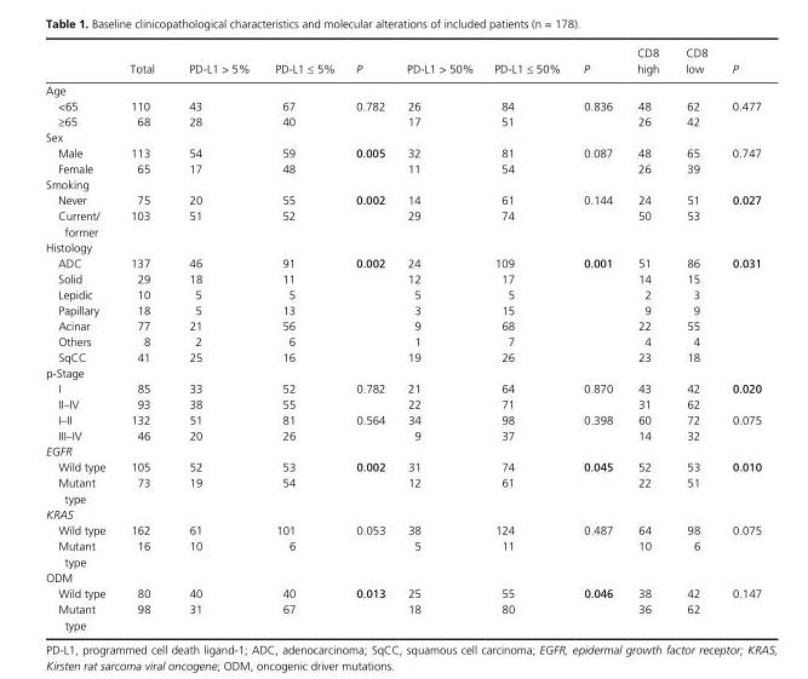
<table><thead><tr><td></td><td>Total</td><td>PD- L1 &gt; 5%</td><td>PD- L1 ≤ 5%</td><td>P</td><td>PD- L1 &gt; 50%</td><td>PD- L1 ≤ 50%</td><td>P</td><td>CD8 high</td><td>CD8 low</td><td>P</td></tr></thead><tbody><tr><td colspan="11">Age</td></tr><tr><td>&lt;65</td><td>110</td><td>43</td><td>67</td><td>0.782</td><td>26</td><td>84</td><td>0.836</td><td>48</td><td>62</td><td>0.477</td></tr><tr><td>≥65</td><td>68</td><td>28</td><td>40</td><td></td><td>17</td><td>51</td><td></td><td>26</td><td>42</td><td></td></tr><tr><td colspan="11">Sex</td></tr><tr><td>Male</td><td>113</td><td>54</td><td>59</td><td>0.005</td><td>32</td><td>81</td><td>0.087</td><td>48</td><td>65</td><td>0.747</td></tr><tr><td>Female</td><td>65</td><td>17</td><td>48</td><td></td><td>11</td><td>54</td><td></td><td>26</td><td>39</td><td></td></tr><tr><td colspan="11">Smoking</td></tr><tr><td>Never</td><td>75</td><td>20</td><td>55</td><td>0.002</td><td>14</td><td>61</td><td>0.144</td><td>24</td><td>51</td><td>0.027</td></tr><tr><td>Current/ former</td><td>103</td><td>51</td><td>52</td><td></td><td>29</td><td>74</td><td></td><td>50</td><td>53</td><td></td></tr><tr><td colspan="11">Histology</td></tr><tr><td>ADC</td><td>137</td><td>46</td><td>91</td><td>0.002</td><td>24</td><td>109</td><td>0.001</td><td>51</td><td>86</td><td>0.031</td></tr><tr><td>Solid</td><td>29</td><td>18</td><td>11</td><td></td><td>12</td><td>17</td><td></td><td>14</td><td>15</td><td></td></tr><tr><td>Lepidic</td><td>10</td><td>5</td><td>5</td><td></td><td>5</td><td>5</td><td></td><td>2</td><td>3</td><td></td></tr><tr><td>Papillary</td><td>18</td><td>5</td><td>13</td><td></td><td>3</td><td>15</td><td></td><td>9</td><td>9</td><td></td></tr><tr><td>Acinar</td><td>77</td><td>21</td><td>56</td><td></td><td>9</td><td>68</td><td></td><td>22</td><td>55</td><td></td></tr><tr><td>Others</td><td>8</td><td>2</td><td>6</td><td></td><td>1</td><td>7</td><td></td><td>4</td><td>4</td><td></td></tr><tr><td>SqCC</td><td>41</td><td>25</td><td>16</td><td></td><td>19</td><td>26</td><td></td><td>23</td><td>18</td><td></td></tr><tr><td colspan="11">p- Stage</td></tr><tr><td>I</td><td>85</td><td>33</td><td>52</td><td>0.782</td><td>21</td><td>64</td><td>0.870</td><td>43</td><td>42</td><td>0.020</td></tr><tr><td>II–IV</td><td>93</td><td>38</td><td>55</td><td></td><td>22</td><td>71</td><td></td><td>31</td><td>62</td><td></td></tr><tr><td>I–II</td><td>132</td><td>51</td><td>81</td><td>0.564</td><td>34</td><td>98</td><td>0.398</td><td>60</td><td>72</td><td>0.075</td></tr><tr><td>III–IV</td><td>46</td><td>20</td><td>26</td><td></td><td>9</td><td>37</td><td></td><td>14</td><td>32</td><td></td></tr><tr><td colspan="11">EGFR</td></tr><tr><td>Wild type</td><td>105</td><td>52</td><td>53</td><td>0.002</td><td>31</td><td>74</td><td>0.045</td><td>52</td><td>53</td><td>0.010</td></tr><tr><td>Mutant type</td><td>73</td><td>19</td><td>54</td><td></td><td>12</td><td>61</td><td></td><td>22</td><td>51</td><td></td></tr><tr><td colspan="11">KRAS</td></tr><tr><td>Wild type</td><td>162</td><td>61</td><td>101</td><td>0.053</td><td>38</td><td>124</td><td>0.487</td><td>64</td><td>98</td><td>0.075</td></tr><tr><td>Mutant type</td><td>16</td><td>10</td><td>6</td><td></td><td>5</td><td>11</td><td></td><td>10</td><td>6</td><td></td></tr><tr><td colspan="11">ODM</td></tr><tr><td>Wild type</td><td>80</td><td>40</td><td>40</td><td>0.013</td><td>25</td><td>55</td><td>0.046</td><td>38</td><td>42</td><td>0.147</td></tr><tr><td>Mutant type</td><td>98</td><td>31</td><td>67</td><td></td><td>18</td><td>80</td><td></td><td>36</td><td>62</td><td></td></tr></tbody></table>